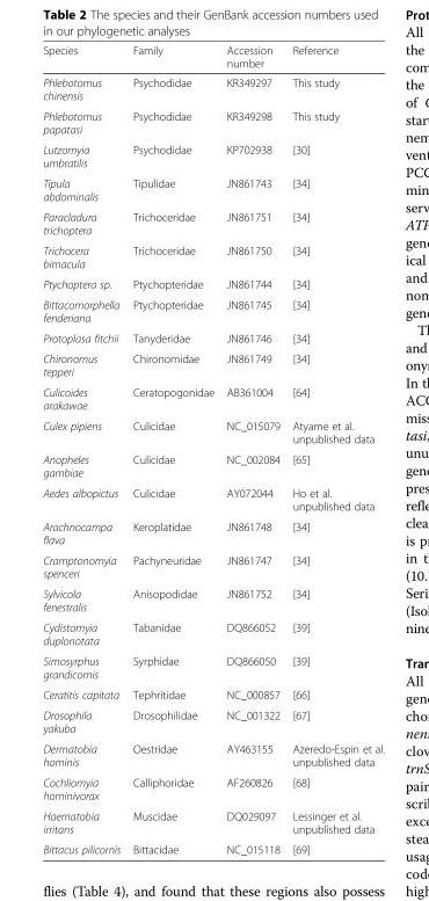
<table><thead><tr><td>Species</td><td>Family</td><td>Accession number</td><td>Reference</td></tr></thead><tbody><tr><td>Phlebotomus chinensis</td><td>Psychodidae</td><td>KR349297</td><td>This study</td></tr><tr><td>Phlebotomus papatasi</td><td>Psychodidae</td><td>KR349298</td><td>This study</td></tr><tr><td>Lutzomyia umbratilis</td><td>Psychodidae</td><td>KP702938</td><td>[30]</td></tr><tr><td>Tipula abdominalis</td><td>Tipulidae</td><td>JN861743</td><td>[34]</td></tr><tr><td>Paracladura trichoptera</td><td>Trichoceridae</td><td>JN861751</td><td>[34]</td></tr><tr><td>Trichocera bimacula</td><td>Trichoceridae</td><td>JN861750</td><td>[34]</td></tr><tr><td>Ptychoptera sp.</td><td>Ptychopteridae</td><td>JN861744</td><td>[34]</td></tr><tr><td>Bittacomorphella fenderiana</td><td>Ptychopteridae</td><td>JN861745</td><td>[34]</td></tr><tr><td>Protoplasa fitchii</td><td>Tanyderidae</td><td>JN861746</td><td>[34]</td></tr><tr><td>Chironomus tepperi</td><td>Chironomidae</td><td>JN861749</td><td>[34]</td></tr><tr><td>Culicoides arakawae</td><td>Ceratopogonidae</td><td>AB361004</td><td>[64]</td></tr><tr><td>Culex pipiens</td><td>Culicidae</td><td>NC_015079</td><td>Atyame et al. unpublished data</td></tr><tr><td>Anopheles gambiae</td><td>Culicidae</td><td>NC_002084</td><td>[65]</td></tr><tr><td>Aedes albopictus</td><td>Culicidae</td><td>AY072044</td><td>Ho et al. unpublished data</td></tr><tr><td>Arachnocampa flava</td><td>Keroplatidae</td><td>JN861748</td><td>[34]</td></tr><tr><td>Cramptonomyia spenceri</td><td>Pachyneuridae</td><td>JN861747</td><td>[34]</td></tr><tr><td>Sylvicola fenestralis</td><td>Anisopodidae</td><td>JN861752</td><td>[34]</td></tr><tr><td>Cydistomyia duplonotata</td><td>Tabanidae</td><td>DQ866052</td><td>[39]</td></tr><tr><td>Simosyrphus grandicornis</td><td>Syrphidae</td><td>DQ866050</td><td>[39]</td></tr><tr><td>Ceratitis capitata</td><td>Tephritidae</td><td>NC_000857</td><td>[66]</td></tr><tr><td>Drosophila yakuba</td><td>Drosophilidae</td><td>NC_001322</td><td>[67]</td></tr><tr><td>Dermatobia hominis</td><td>Oestridae</td><td>AY463155</td><td>Azeredo-Espin et al. unpublished data</td></tr><tr><td>Cochliomyia hominivorax</td><td>Calliphoridae</td><td>AF260826</td><td>[68]</td></tr><tr><td>Haematobia irritans</td><td>Muscidae</td><td>DQ029097</td><td>Lessinger et al. unpublished data</td></tr><tr><td>Bittacus pilicornis</td><td>Bittacidae</td><td>NC_015118</td><td>[69]</td></tr></tbody></table>